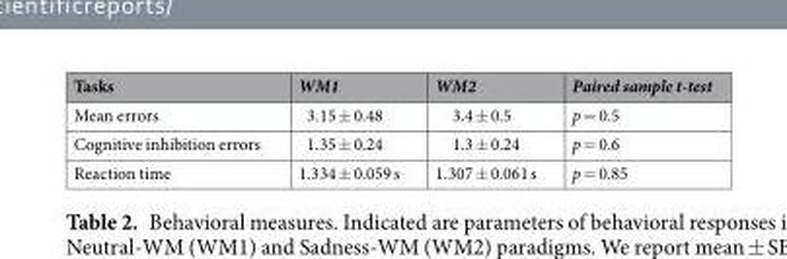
<table><thead><tr><td>Tasks</td><td>WM1</td><td>WM2</td><td>Paired sample t-test</td></tr></thead><tbody><tr><td>Mean errors</td><td>3.15 ± 0.48</td><td>3.4 ± 0.5</td><td>p = 0.5</td></tr><tr><td>Cognitive inhibition errors</td><td>1.35 ± 0.24</td><td>1.3 ± 0.24</td><td>p = 0.6</td></tr><tr><td>Reaction time</td><td>1.334 ± 0.059 s</td><td>1.307 ± 0.061 s</td><td>p = 0.85</td></tr></tbody></table>